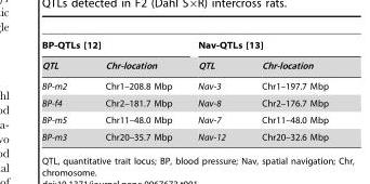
<table><thead><tr><td colspan="2">BP-QTLs [12]</td><td colspan="2">Nav-QTLs [13]</td></tr><tr><td>QTL</td><td>Chr-location</td><td>QTL</td><td>Chr-location</td></tr></thead><tbody><tr><td>BP-m2</td><td>Chr1–208.8 Mbp</td><td>Nav-3</td><td>Chr1–197.7 Mbp</td></tr><tr><td>BP-f4</td><td>Chr2–181.7 Mbp</td><td>Nav-8</td><td>Chr2–176.7 Mbp</td></tr><tr><td>BP-m5</td><td>Chr11–48.0 Mbp</td><td>Nav-7</td><td>Chr11–48.0 Mbp</td></tr><tr><td>BP-m3</td><td>Chr20–35.7 Mbp</td><td>Nav-12</td><td>Chr20–32.6 Mbp</td></tr></tbody></table>